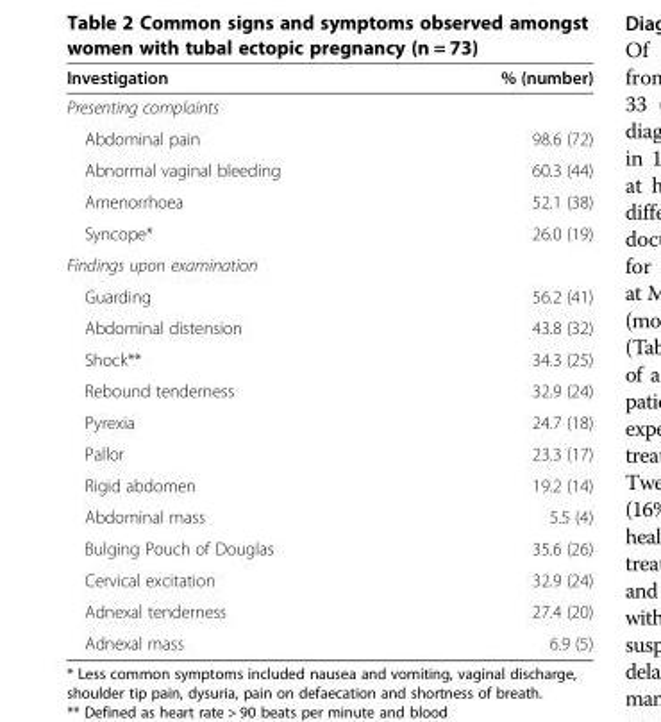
<table><thead><tr><td>Investigation</td><td>% (number)</td></tr></thead><tbody><tr><td colspan="2">Presenting complaints</td></tr><tr><td>Abdominal pain</td><td>98.6 (72)</td></tr><tr><td>Abnormal vaginal bleeding</td><td>60.3 (44)</td></tr><tr><td>Amenorrhoea</td><td>52.1 (38)</td></tr><tr><td>Syncope*</td><td>26.0 (19)</td></tr><tr><td colspan="2">Findings upon examination</td></tr><tr><td>Guarding</td><td>56.2 (41)</td></tr><tr><td>Abdominal distension</td><td>43.8 (32)</td></tr><tr><td>Shock**</td><td>34.3 (25)</td></tr><tr><td>Rebound tenderness</td><td>32.9 (24)</td></tr><tr><td>Pyrexia</td><td>24.7 (18)</td></tr><tr><td>Pallor</td><td>23.3 (17)</td></tr><tr><td>Rigid abdomen</td><td>19.2 (14)</td></tr><tr><td>Abdominal mass</td><td>5.5 (4)</td></tr><tr><td>Bulging Pouch of Douglas</td><td>35.6 (26)</td></tr><tr><td>Cervical excitation</td><td>32.9 (24)</td></tr><tr><td>Adnexal tenderness</td><td>27.4 (20)</td></tr><tr><td>Adnexal mass</td><td>6.9 (5)</td></tr></tbody></table>